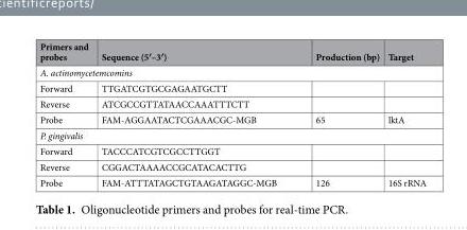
<table><thead><tr><td>Primers and probes</td><td>Sequence (5′–3′)</td><td>Production (bp)</td><td>Target</td></tr></thead><tbody><tr><td colspan="4">A. actinomycetemcomins</td></tr><tr><td>Forward</td><td>TTGATCGTGCGAGAATGCTT</td><td></td><td></td></tr><tr><td>Reverse</td><td>ATCGCCGTTATAACCAAATTTCTT</td><td></td><td></td></tr><tr><td>Probe</td><td>FAM-AGGAATACTCGAAACGC-MGB</td><td>65</td><td>lktA</td></tr><tr><td colspan="4">P. gingivalis</td></tr><tr><td>Forward</td><td>TACCCATCGTCGCCTTGGT</td><td></td><td></td></tr><tr><td>Reverse</td><td>CGGACTAAAACCGCATACACTTG</td><td></td><td></td></tr><tr><td>Probe</td><td>FAM-ATTTATAGCTGTAAGATAGGC-MGB</td><td>126</td><td>16S rRNA</td></tr></tbody></table>